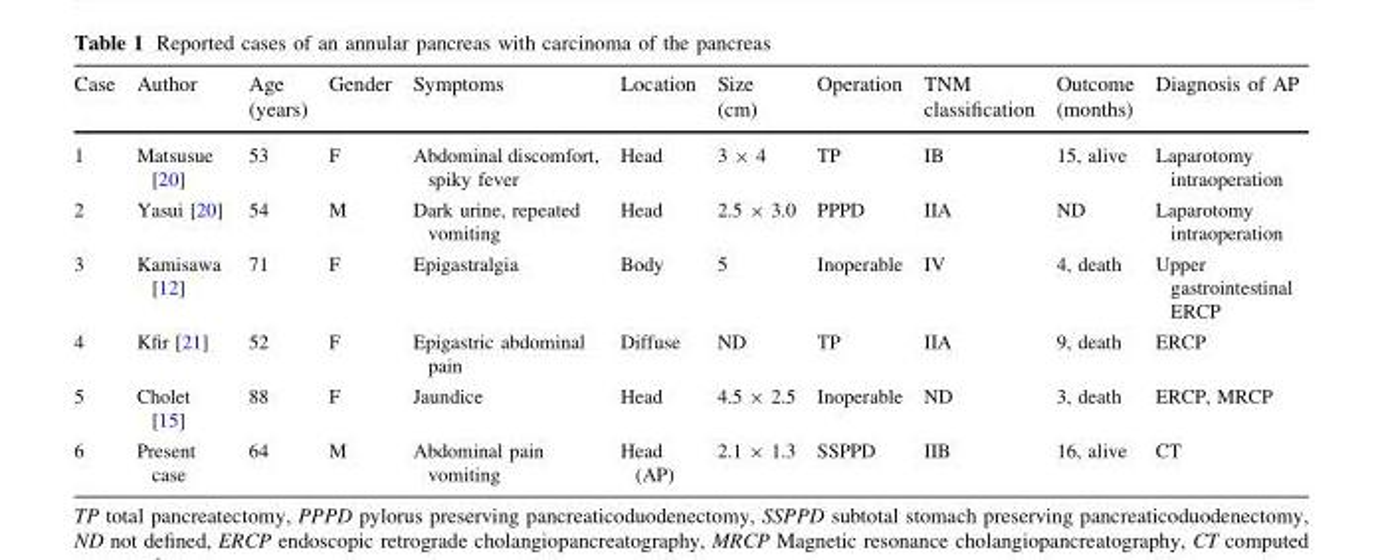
<table><thead><tr><td>Case</td><td>Author</td><td>Age (years)</td><td>Gender</td><td>Symptoms</td><td>Location</td><td>Size (cm)</td><td>Operation</td><td>TNM classification</td><td>Outcome (months)</td><td>Diagnosis of AP</td></tr></thead><tbody><tr><td>1</td><td>Matsusue [20]</td><td>53</td><td>F</td><td>Abdominal discomfort, spiky fever</td><td>Head</td><td>3 × 4</td><td>TP</td><td>IB</td><td>15, alive</td><td>Laparotomy intraoperation</td></tr><tr><td>2</td><td>Yasui [20]</td><td>54</td><td>M</td><td>Dark urine, repeated vomiting</td><td>Head</td><td>2.5 × 3.0</td><td>PPPD</td><td>IIA</td><td>ND</td><td>Laparotomy intraoperation</td></tr><tr><td>3</td><td>Kamisawa [12]</td><td>71</td><td>F</td><td>Epigastralgia</td><td>Body</td><td>5</td><td>Inoperable</td><td>IV</td><td>4, death</td><td>Upper gastrointestinal ERCP</td></tr><tr><td>4</td><td>Kfir [21]</td><td>52</td><td>F</td><td>Epigastric abdominal pain</td><td>Diffuse</td><td>ND</td><td>TP</td><td>IIA</td><td>9, death</td><td>ERCP</td></tr><tr><td>5</td><td>Cholet [15]</td><td>88</td><td>F</td><td>Jaundice</td><td>Head</td><td>4.5 × 2.5</td><td>Inoperable</td><td>ND</td><td>3, death</td><td>ERCP, MRCP</td></tr><tr><td>6</td><td>Present case</td><td>64</td><td>M</td><td>Abdominal pain vomiting</td><td>Head (AP)</td><td>2.1 × 1.3</td><td>SSPPD</td><td>IIB</td><td>16, alive</td><td>CT</td></tr></tbody></table>